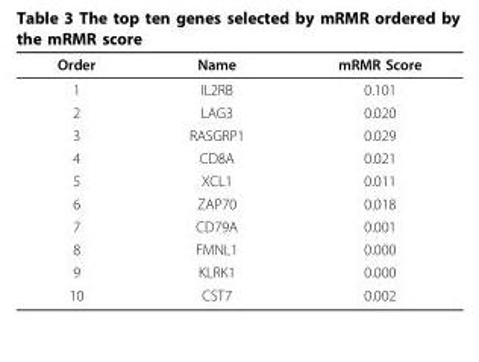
<table><thead><tr><td>Order</td><td>Name</td><td>mRMR Score</td></tr></thead><tbody><tr><td>1</td><td>IL2RB</td><td>0.101</td></tr><tr><td>2</td><td>LAG3</td><td>0.020</td></tr><tr><td>3</td><td>RASGRP1</td><td>0.029</td></tr><tr><td>4</td><td>CD8A</td><td>0.021</td></tr><tr><td>5</td><td>XCL1</td><td>0.011</td></tr><tr><td>6</td><td>ZAP70</td><td>0.018</td></tr><tr><td>7</td><td>CD79A</td><td>0.001</td></tr><tr><td>8</td><td>FMNL1</td><td>0.000</td></tr><tr><td>9</td><td>KLRK1</td><td>0.000</td></tr><tr><td>10</td><td>CST7</td><td>0.002</td></tr></tbody></table>